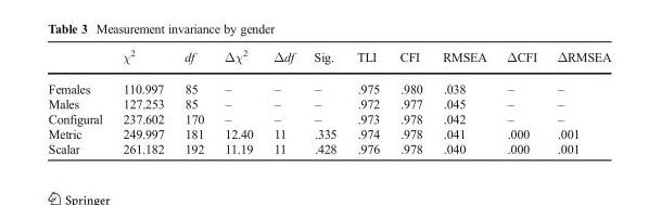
<table><thead><tr><td></td><td>χ<sup>2</sup></td><td>df</td><td>Δχ<sup>2</sup></td><td>Δdf</td><td>Sig.</td><td>TLI</td><td>CFI</td><td>RMSEA</td><td>ΔCFI</td><td>ΔRMSEA</td></tr></thead><tbody><tr><td>Females</td><td>110.997</td><td>85</td><td>–</td><td>–</td><td>–</td><td>.975</td><td>.980</td><td>.038</td><td>–</td><td>–</td></tr><tr><td>Males</td><td>127.253</td><td>85</td><td>–</td><td>–</td><td>–</td><td>.972</td><td>.977</td><td>.045</td><td>–</td><td>–</td></tr><tr><td>Configural</td><td>237.602</td><td>170</td><td>–</td><td>–</td><td>–</td><td>.973</td><td>.978</td><td>.042</td><td>–</td><td>–</td></tr><tr><td>Metric</td><td>249.997</td><td>181</td><td>12.40</td><td>11</td><td>.335</td><td>.974</td><td>.978</td><td>.041</td><td>.000</td><td>.001</td></tr><tr><td>Scalar</td><td>261.182</td><td>192</td><td>11.19</td><td>11</td><td>.428</td><td>.976</td><td>.978</td><td>.040</td><td>.000</td><td>.001</td></tr></tbody></table>